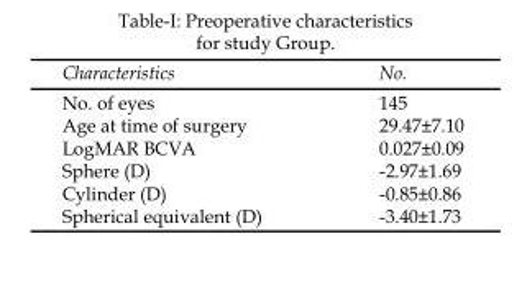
<table><thead><tr><td>Characteristics</td><td>No.</td></tr></thead><tbody><tr><td>No. of eyes</td><td>145</td></tr><tr><td>Age at time of surgery</td><td>29.47±7.10</td></tr><tr><td>LogMAR BCVA</td><td>0.027±0.09</td></tr><tr><td>Sphere (D)</td><td>-2.97±1.69</td></tr><tr><td>Cylinder (D)</td><td>-0.85±0.86</td></tr><tr><td>Spherical equivalent (D)</td><td>-3.40±1.73</td></tr></tbody></table>